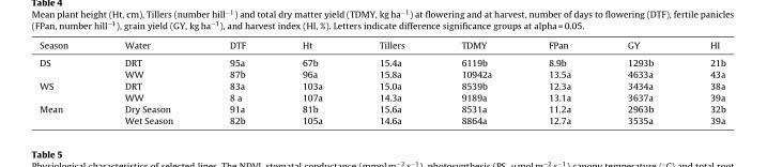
<table><thead><tr><td>Season</td><td>Water</td><td>DTF</td><td>Ht</td><td>Tillers</td><td>TDMY</td><td>FPan</td><td>GY</td><td>HI</td></tr></thead><tbody><tr><td rowspan="2">DS</td><td>DRT</td><td>95a</td><td>67b</td><td>15.4a</td><td>6119b</td><td>8.9b</td><td>1293b</td><td>21b</td></tr><tr><td>WW</td><td>87b</td><td>96a</td><td>15.8a</td><td>10942a</td><td>13.5a</td><td>4633a</td><td>43a</td></tr><tr><td rowspan="2">WS</td><td>DRT</td><td>83a</td><td>103a</td><td>15.0a</td><td>8539b</td><td>12.3a</td><td>3434a</td><td>38a</td></tr><tr><td>WW</td><td>8 a</td><td>107a</td><td>14.3a</td><td>9189a</td><td>13.1a</td><td>3637a</td><td>39a</td></tr><tr><td rowspan="2">Mean</td><td>Dry Season</td><td>91a</td><td>81b</td><td>15.6a</td><td>8531a</td><td>11.2a</td><td>2963b</td><td>32b</td></tr><tr><td>Wet Season</td><td>82b</td><td>105a</td><td>14.6a</td><td>8864a</td><td>12.7a</td><td>3535a</td><td>39a</td></tr></tbody></table>